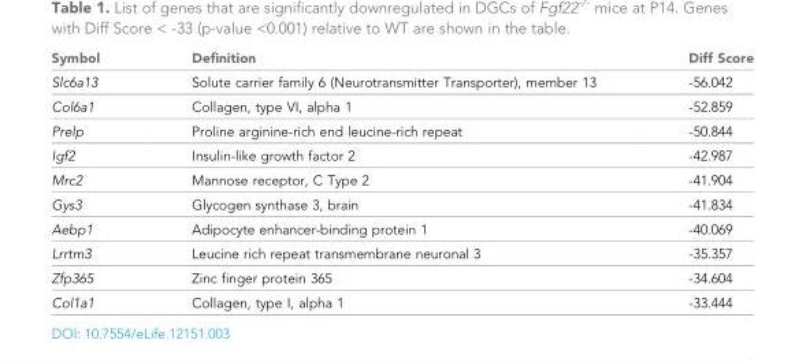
<table><thead><tr><td>Symbol</td><td>Definition</td><td>Diff Score</td></tr></thead><tbody><tr><td>Slc6a13</td><td>Solute carrier family 6 (Neurotransmitter Transporter), member 13</td><td>-56.042</td></tr><tr><td>Col6a1</td><td>Collagen, type VI, alpha 1</td><td>-52.859</td></tr><tr><td>Prelp</td><td>Proline arginine-rich end leucine-rich repeat</td><td>-50.844</td></tr><tr><td>Igf2</td><td>Insulin-like growth factor 2</td><td>-42.987</td></tr><tr><td>Mrc2</td><td>Mannose receptor, C Type 2</td><td>-41.904</td></tr><tr><td>Gys3</td><td>Glycogen synthase 3, brain</td><td>-41.834</td></tr><tr><td>Aebp1</td><td>Adipocyte enhancer-binding protein 1</td><td>-40.069</td></tr><tr><td>Lrrtm3</td><td>Leucine rich repeat transmembrane neuronal 3</td><td>-35.357</td></tr><tr><td>Zfp365</td><td>Zinc finger protein 365</td><td>-34.604</td></tr><tr><td>Col1a1</td><td>Collagen, type I, alpha 1</td><td>-33.444</td></tr></tbody></table>